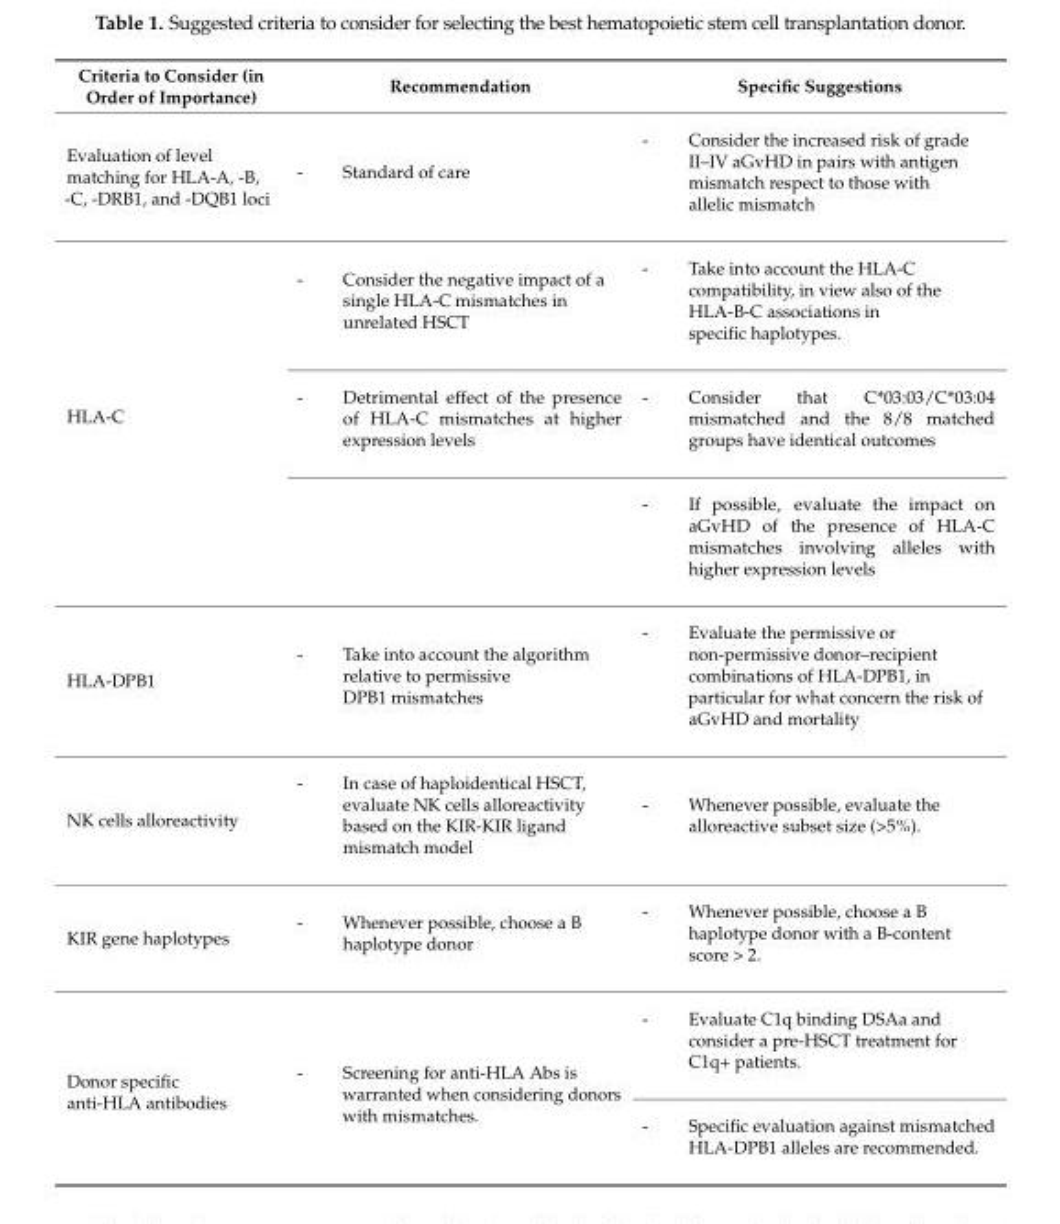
<table><thead><tr><td>Criteria to Consider (in Order of Importance)</td><td>Recommendation</td><td>Specific Suggestions</td></tr></thead><tbody><tr><td>Evaluation of level matching for HLA-A, -B, -C, -DRB1, and -DQB1 loci</td><td>- Standard of care</td><td>- Consider the increased risk of grade II–IV aGvHD in pairs with antigen mismatch respect to those with allelic mismatch</td></tr><tr><td rowspan="3">HLA-C</td><td>- Consider the negative impact of a single HLA-C mismatches in unrelated HSCT</td><td>- Take into account the HLA-C compatibility, in view also of the HLA-B-C associations in specific haplotypes.</td></tr><tr><td>- Detrimental effect of the presence of HLA-C mismatches at higher expression levels</td><td>- Consider that C*03:03/C*03:04 mismatched and the 8/8 matched groups have identical outcomes</td></tr><tr><td></td><td>- If possible, evaluate the impact on aGvHD of the presence of HLA-C mismatches involving alleles with higher expression levels</td></tr><tr><td>HLA-DPB1</td><td>- Take into account the algorithm relative to permissive DPB1 mismatches</td><td>- Evaluate the permissive or non-permissive donor–recipient combinations of HLA-DPB1, in particular for what concern the risk of aGvHD and mortality</td></tr><tr><td>NK cells alloreactivity</td><td>- In case of haploidentical HSCT, evaluate NK cells alloreactivity based on the KIR-KIR ligand mismatch model</td><td>- Whenever possible, evaluate the alloreactive subset size (&gt;5%).</td></tr><tr><td>KIR gene haplotypes</td><td>- Whenever possible, choose a B haplotype donor</td><td>- Whenever possible, choose a B haplotype donor with a B-content score &gt; 2.</td></tr><tr><td rowspan="2">Donor specific anti-HLA antibodies</td><td rowspan="2">- Screening for anti-HLA Abs is warranted when considering donors with mismatches.</td><td>- Evaluate C1q binding DSAa and consider a pre-HSCT treatment for C1q+ patients.</td></tr><tr><td>- Specific evaluation against mismatched HLA-DPB1 alleles are recommended.</td></tr></tbody></table>